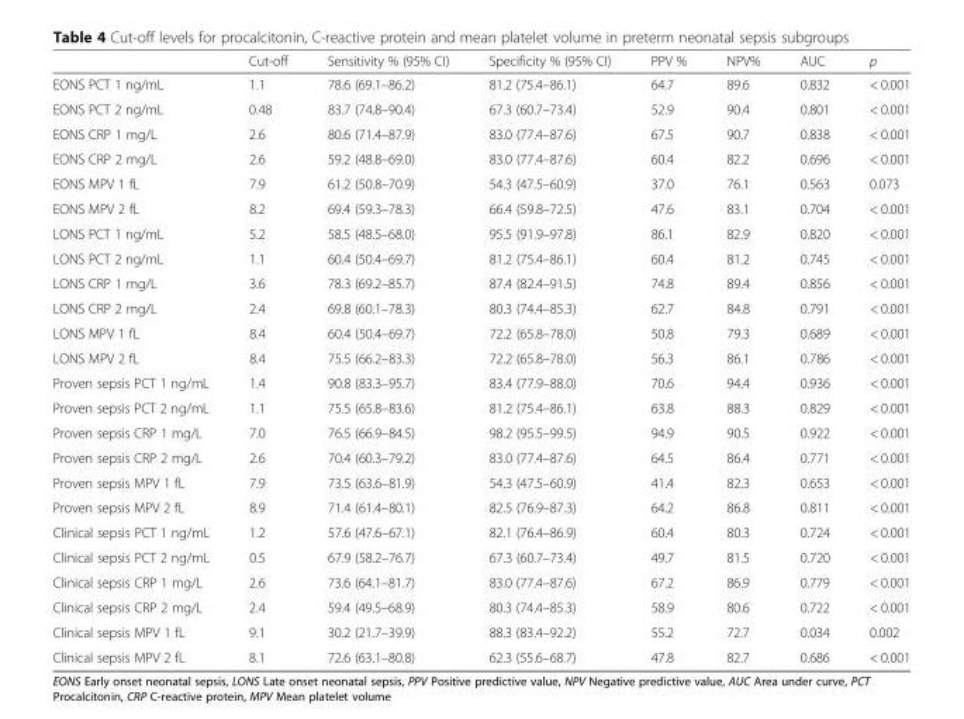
<table><thead><tr><td></td><td>Cut-off</td><td>Sensitivity % (95% CI)</td><td>Specificity % (95% CI)</td><td>PPV %</td><td>NPV%</td><td>AUC</td><td>p</td></tr></thead><tbody><tr><td>EONS PCT 1 ng/mL</td><td>1.1</td><td>78.6 (69.1–86.2)</td><td>81.2 (75.4–86.1)</td><td>64.7</td><td>89.6</td><td>0.832</td><td>&lt; 0.001</td></tr><tr><td>EONS PCT 2 ng/mL</td><td>0.48</td><td>83.7 (74.8–90.4)</td><td>67.3 (60.7–73.4)</td><td>52.9</td><td>90.4</td><td>0.801</td><td>&lt; 0.001</td></tr><tr><td>EONS CRP 1 mg/L</td><td>2.6</td><td>80.6 (71.4–87.9)</td><td>83.0 (77.4–87.6)</td><td>67.5</td><td>90.7</td><td>0.838</td><td>&lt; 0.001</td></tr><tr><td>EONS CRP 2 mg/L</td><td>2.6</td><td>59.2 (48.8–69.0)</td><td>83.0 (77.4–87.6)</td><td>60.4</td><td>82.2</td><td>0.696</td><td>&lt; 0.001</td></tr><tr><td>EONS MPV 1 fL</td><td>7.9</td><td>61.2 (50.8–70.9)</td><td>54.3 (47.5–60.9)</td><td>37.0</td><td>76.1</td><td>0.563</td><td>0.073</td></tr><tr><td>EONS MPV 2 fL</td><td>8.2</td><td>69.4 (59.3–78.3)</td><td>66.4 (59.8–72.5)</td><td>47.6</td><td>83.1</td><td>0.704</td><td>&lt; 0.001</td></tr><tr><td>LONS PCT 1 ng/mL</td><td>5.2</td><td>58.5 (48.5–68.0)</td><td>95.5 (91.9–97.8)</td><td>86.1</td><td>82.9</td><td>0.820</td><td>&lt; 0.001</td></tr><tr><td>LONS PCT 2 ng/mL</td><td>1.1</td><td>60.4 (50.4–69.7)</td><td>81.2 (75.4–86.1)</td><td>60.4</td><td>81.2</td><td>0.745</td><td>&lt; 0.001</td></tr><tr><td>LONS CRP 1 mg/L</td><td>3.6</td><td>78.3 (69.2–85.7)</td><td>87.4 (82.4–91.5)</td><td>74.8</td><td>89.4</td><td>0.856</td><td>&lt; 0.001</td></tr><tr><td>LONS CRP 2 mg/L</td><td>2.4</td><td>69.8 (60.1–78.3)</td><td>80.3 (74.4–85.3)</td><td>62.7</td><td>84.8</td><td>0.791</td><td>&lt; 0.001</td></tr><tr><td>LONS MPV 1 fL</td><td>8.4</td><td>60.4 (50.4–69.7)</td><td>72.2 (65.8–78.0)</td><td>50.8</td><td>79.3</td><td>0.689</td><td>&lt; 0.001</td></tr><tr><td>LONS MPV 2 fL</td><td>8.4</td><td>75.5 (66.2–83.3)</td><td>72.2 (65.8–78.0)</td><td>56.3</td><td>86.1</td><td>0.786</td><td>&lt; 0.001</td></tr><tr><td>Proven sepsis PCT 1 ng/mL</td><td>1.4</td><td>90.8 (83.3–95.7)</td><td>83.4 (77.9–88.0)</td><td>70.6</td><td>94.4</td><td>0.936</td><td>&lt; 0.001</td></tr><tr><td>Proven sepsis PCT 2 ng/mL</td><td>1.1</td><td>75.5 (65.8–83.6)</td><td>81.2 (75.4–86.1)</td><td>63.8</td><td>88.3</td><td>0.829</td><td>&lt; 0.001</td></tr><tr><td>Proven sepsis CRP 1 mg/L</td><td>7.0</td><td>76.5 (66.9–84.5)</td><td>98.2 (95.5–99.5)</td><td>94.9</td><td>90.5</td><td>0.922</td><td>&lt; 0.001</td></tr><tr><td>Proven sepsis CRP 2 mg/L</td><td>2.6</td><td>70.4 (60.3–79.2)</td><td>83.0 (77.4–87.6)</td><td>64.5</td><td>86.4</td><td>0.771</td><td>&lt; 0.001</td></tr><tr><td>Proven sepsis MPV 1 fL</td><td>7.9</td><td>73.5 (63.6–81.9)</td><td>54.3 (47.5–60.9)</td><td>41.4</td><td>82.3</td><td>0.653</td><td>&lt; 0.001</td></tr><tr><td>Proven sepsis MPV 2 fL</td><td>8.9</td><td>71.4 (61.4–80.1)</td><td>82.5 (76.9–87.3)</td><td>64.2</td><td>86.8</td><td>0.811</td><td>&lt; 0.001</td></tr><tr><td>Clinical sepsis PCT 1 ng/mL</td><td>1.2</td><td>57.6 (47.6–67.1)</td><td>82.1 (76.4–86.9)</td><td>60.4</td><td>80.3</td><td>0.724</td><td>&lt; 0.001</td></tr><tr><td>Clinical sepsis PCT 2 ng/mL</td><td>0.5</td><td>67.9 (58.2–76.7)</td><td>67.3 (60.7–73.4)</td><td>49.7</td><td>81.5</td><td>0.720</td><td>&lt; 0.001</td></tr><tr><td>Clinical sepsis CRP 1 mg/L</td><td>2.6</td><td>73.6 (64.1–81.7)</td><td>83.0 (77.4–87.6)</td><td>67.2</td><td>86.9</td><td>0.779</td><td>&lt; 0.001</td></tr><tr><td>Clinical sepsis CRP 2 mg/L</td><td>2.4</td><td>59.4 (49.5–68.9)</td><td>80.3 (74.4–85.3)</td><td>58.9</td><td>80.6</td><td>0.722</td><td>&lt; 0.001</td></tr><tr><td>Clinical sepsis MPV 1 fL</td><td>9.1</td><td>30.2 (21.7–39.9)</td><td>88.3 (83.4–92.2)</td><td>55.2</td><td>72.7</td><td>0.034</td><td>0.002</td></tr><tr><td>Clinical sepsis MPV 2 fL</td><td>8.1</td><td>72.6 (63.1–80.8)</td><td>62.3 (55.6–68.7)</td><td>47.8</td><td>82.7</td><td>0.686</td><td>&lt; 0.001</td></tr></tbody></table>